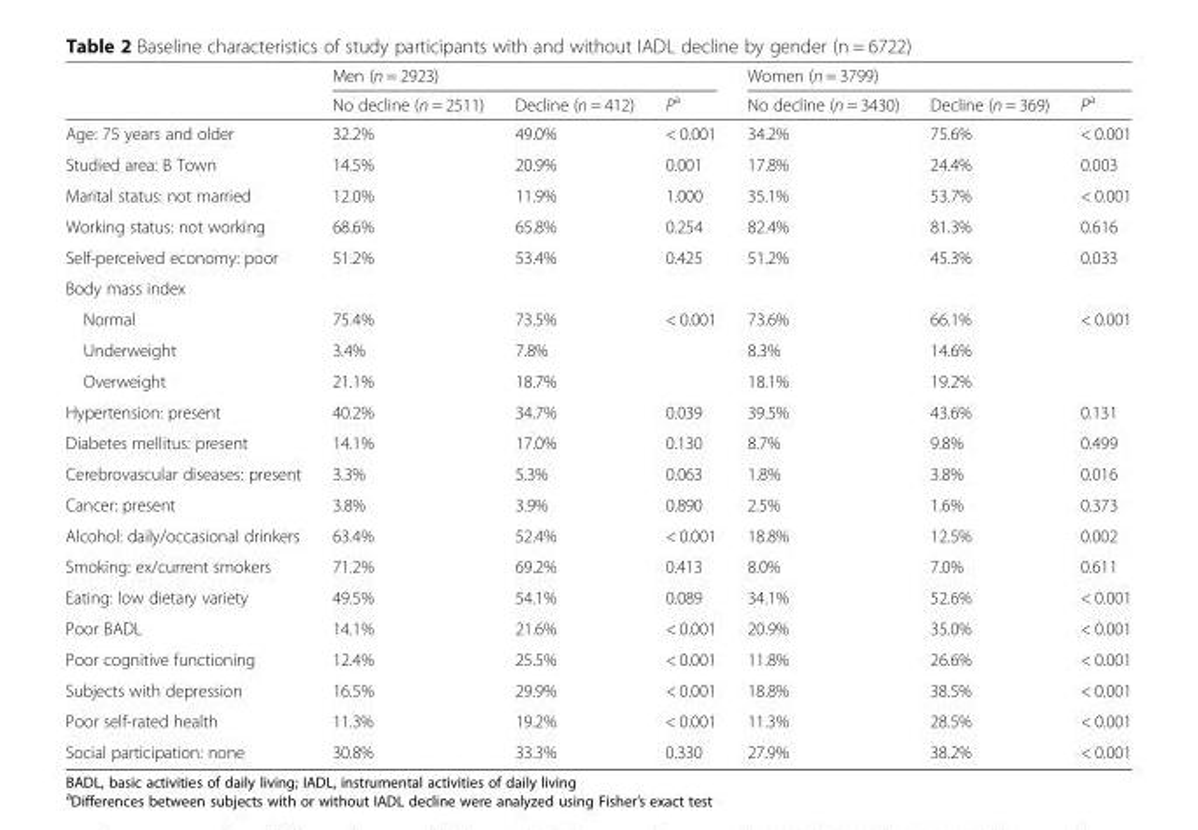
<table><thead><tr><td rowspan="2"></td><td colspan="3">Men (n = 2923)</td><td colspan="3">Women (n = 3799)</td></tr><tr><td>No decline (n = 2511)</td><td>Decline (n = 412)</td><td>P<sup>a</sup></td><td>No decline (n = 3430)</td><td>Decline (n = 369)</td><td>P<sup>a</sup></td></tr></thead><tbody><tr><td>Age: 75 years and older</td><td>32.2%</td><td>49.0%</td><td>&lt; 0.001</td><td>34.2%</td><td>75.6%</td><td>&lt; 0.001</td></tr><tr><td>Studied area: B Town</td><td>14.5%</td><td>20.9%</td><td>0.001</td><td>17.8%</td><td>24.4%</td><td>0.003</td></tr><tr><td>Marital status: not married</td><td>12.0%</td><td>11.9%</td><td>1.000</td><td>35.1%</td><td>53.7%</td><td>&lt; 0.001</td></tr><tr><td>Working status: not working</td><td>68.6%</td><td>65.8%</td><td>0.254</td><td>82.4%</td><td>81.3%</td><td>0.616</td></tr><tr><td>Self-perceived economy: poor</td><td>51.2%</td><td>53.4%</td><td>0.425</td><td>51.2%</td><td>45.3%</td><td>0.033</td></tr><tr><td colspan="7">Body mass index</td></tr><tr><td>Normal</td><td>75.4%</td><td>73.5%</td><td rowspan="3">&lt; 0.001</td><td>73.6%</td><td>66.1%</td><td rowspan="3">&lt; 0.001</td></tr><tr><td>Underweight</td><td>3.4%</td><td>7.8%</td><td>8.3%</td><td>14.6%</td></tr><tr><td>Overweight</td><td>21.1%</td><td>18.7%</td><td>18.1%</td><td>19.2%</td></tr><tr><td>Hypertension: present</td><td>40.2%</td><td>34.7%</td><td>0.039</td><td>39.5%</td><td>43.6%</td><td>0.131</td></tr><tr><td>Diabetes mellitus: present</td><td>14.1%</td><td>17.0%</td><td>0.130</td><td>8.7%</td><td>9.8%</td><td>0.499</td></tr><tr><td>Cerebrovascular diseases: present</td><td>3.3%</td><td>5.3%</td><td>0.063</td><td>1.8%</td><td>3.8%</td><td>0.016</td></tr><tr><td>Cancer: present</td><td>3.8%</td><td>3.9%</td><td>0.890</td><td>2.5%</td><td>1.6%</td><td>0.373</td></tr><tr><td>Alcohol: daily/occasional drinkers</td><td>63.4%</td><td>52.4%</td><td>&lt; 0.001</td><td>18.8%</td><td>12.5%</td><td>0.002</td></tr><tr><td>Smoking: ex/current smokers</td><td>71.2%</td><td>69.2%</td><td>0.413</td><td>8.0%</td><td>7.0%</td><td>0.611</td></tr><tr><td>Eating: low dietary variety</td><td>49.5%</td><td>54.1%</td><td>0.089</td><td>34.1%</td><td>52.6%</td><td>&lt; 0.001</td></tr><tr><td>Poor BADL</td><td>14.1%</td><td>21.6%</td><td>&lt; 0.001</td><td>20.9%</td><td>35.0%</td><td>&lt; 0.001</td></tr><tr><td>Poor cognitive functioning</td><td>12.4%</td><td>25.5%</td><td>&lt; 0.001</td><td>11.8%</td><td>26.6%</td><td>&lt; 0.001</td></tr><tr><td>Subjects with depression</td><td>16.5%</td><td>29.9%</td><td>&lt; 0.001</td><td>18.8%</td><td>38.5%</td><td>&lt; 0.001</td></tr><tr><td>Poor self-rated health</td><td>11.3%</td><td>19.2%</td><td>&lt; 0.001</td><td>11.3%</td><td>28.5%</td><td>&lt; 0.001</td></tr><tr><td>Social participation: none</td><td>30.8%</td><td>33.3%</td><td>0.330</td><td>27.9%</td><td>38.2%</td><td>&lt; 0.001</td></tr></tbody></table>